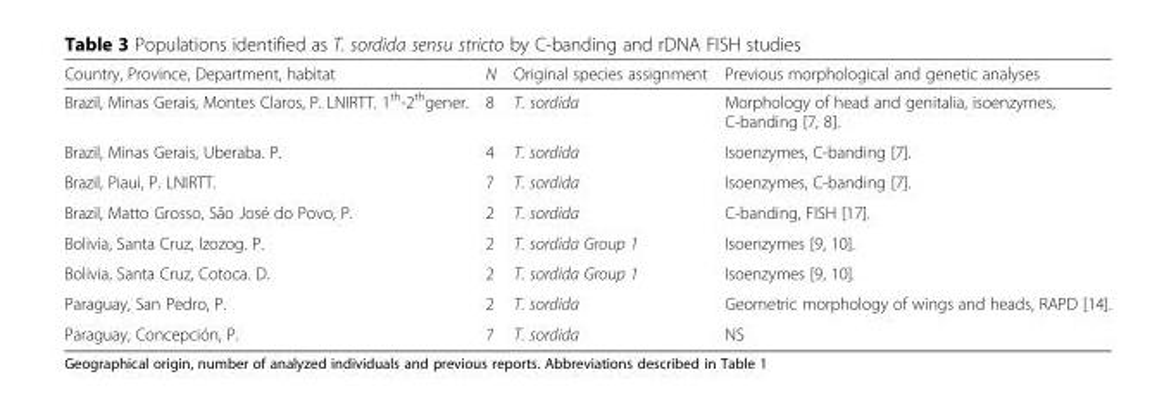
<table><thead><tr><td>Country, Province, Department, habitat</td><td>N</td><td>Original species assignment</td><td>Previous morphological and genetic analyses</td></tr></thead><tbody><tr><td>Brazil, Minas Gerais, Montes Claros, P. LNIRTT. 1<sup>th</sup>-2<sup>th</sup>gener.</td><td>8</td><td>T. sordida</td><td>Morphology of head and genitalia, isoenzymes, C-banding [7, 8].</td></tr><tr><td>Brazil, Minas Gerais, Uberaba. P.</td><td>4</td><td>T. sordida</td><td>Isoenzymes, C-banding [7].</td></tr><tr><td>Brazil, Piaui, P. LNIRTT.</td><td>7</td><td>T. sordida</td><td>Isoenzymes, C-banding [7].</td></tr><tr><td>Brazil, Matto Grosso, São José do Povo, P.</td><td>2</td><td>T. sordida</td><td>C-banding, FISH [17].</td></tr><tr><td>Bolivia, Santa Cruz, Izozog. P.</td><td>2</td><td>T. sordida Group 1</td><td>Isoenzymes [9, 10].</td></tr><tr><td>Bolivia, Santa Cruz, Cotoca. D.</td><td>2</td><td>T. sordida Group 1</td><td>Isoenzymes [9, 10].</td></tr><tr><td>Paraguay, San Pedro, P.</td><td>2</td><td>T. sordida</td><td>Geometric morphology of wings and heads, RAPD [14].</td></tr><tr><td>Paraguay, Concepción, P.</td><td>7</td><td>T. sordida</td><td>NS</td></tr></tbody></table>